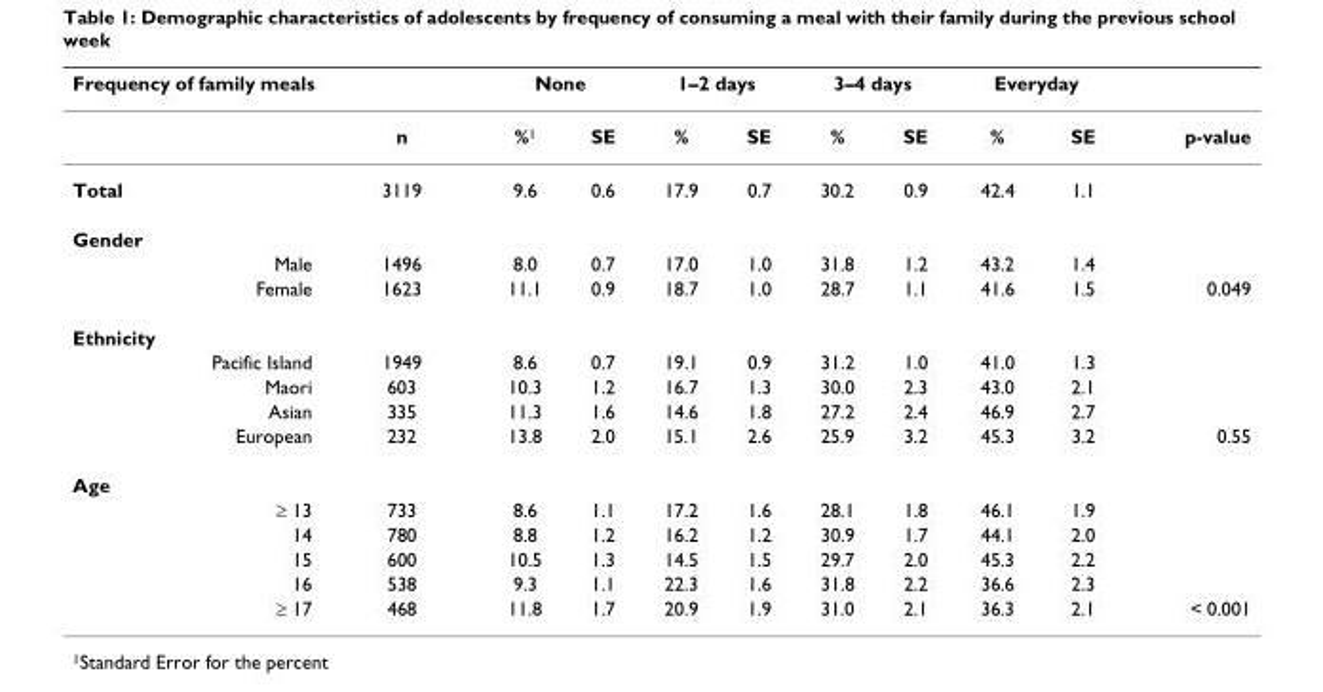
<table><thead><tr><td colspan="2">Frequency of family meals</td><td colspan="2">None</td><td colspan="2">1–2 days</td><td colspan="2">3–4 days</td><td colspan="2">Everyday</td><td rowspan="2">p-value</td></tr><tr><td></td><td>n</td><td>%<sup>1</sup></td><td>SE</td><td>%</td><td>SE</td><td>%</td><td>SE</td><td>%</td><td>SE</td></tr></thead><tbody><tr><td>Total</td><td>3119</td><td>9.6</td><td>0.6</td><td>17.9</td><td>0.7</td><td>30.2</td><td>0.9</td><td>42.4</td><td>1.1</td><td></td></tr><tr><td colspan="11">Gender</td></tr><tr><td>Male</td><td>1496</td><td>8.0</td><td>0.7</td><td>17.0</td><td>1.0</td><td>31.8</td><td>1.2</td><td>43.2</td><td>1.4</td><td></td></tr><tr><td>Female</td><td>1623</td><td>11.1</td><td>0.9</td><td>18.7</td><td>1.0</td><td>28.7</td><td>1.1</td><td>41.6</td><td>1.5</td><td>0.049</td></tr><tr><td colspan="11">Ethnicity</td></tr><tr><td>Pacific Island</td><td>1949</td><td>8.6</td><td>0.7</td><td>19.1</td><td>0.9</td><td>31.2</td><td>1.0</td><td>41.0</td><td>1.3</td><td></td></tr><tr><td>Maori</td><td>603</td><td>10.3</td><td>1.2</td><td>16.7</td><td>1.3</td><td>30.0</td><td>2.3</td><td>43.0</td><td>2.1</td><td></td></tr><tr><td>Asian</td><td>335</td><td>11.3</td><td>1.6</td><td>14.6</td><td>1.8</td><td>27.2</td><td>2.4</td><td>46.9</td><td>2.7</td><td></td></tr><tr><td>European</td><td>232</td><td>13.8</td><td>2.0</td><td>15.1</td><td>2.6</td><td>25.9</td><td>3.2</td><td>45.3</td><td>3.2</td><td>0.55</td></tr><tr><td colspan="11">Age</td></tr><tr><td>≥ 13</td><td>733</td><td>8.6</td><td>1.1</td><td>17.2</td><td>1.6</td><td>28.1</td><td>1.8</td><td>46.1</td><td>1.9</td><td></td></tr><tr><td>14</td><td>780</td><td>8.8</td><td>1.2</td><td>16.2</td><td>1.2</td><td>30.9</td><td>1.7</td><td>44.1</td><td>2.0</td><td></td></tr><tr><td>15</td><td>600</td><td>10.5</td><td>1.3</td><td>14.5</td><td>1.5</td><td>29.7</td><td>2.0</td><td>45.3</td><td>2.2</td><td></td></tr><tr><td>16</td><td>538</td><td>9.3</td><td>1.1</td><td>22.3</td><td>1.6</td><td>31.8</td><td>2.2</td><td>36.6</td><td>2.3</td><td></td></tr><tr><td>≥ 17</td><td>468</td><td>11.8</td><td>1.7</td><td>20.9</td><td>1.9</td><td>31.0</td><td>2.1</td><td>36.3</td><td>2.1</td><td>&lt; 0.001</td></tr></tbody></table>